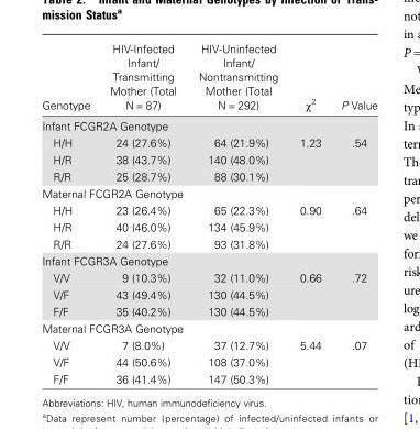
<table><thead><tr><td>Genotype</td><td>HIV-Infected Infant/ Transmitting Mother (Total N = 87)</td><td>HIV-Uninfected Infant/ Nontransmitting Mother (Total N = 292)</td><td>χ<sup>2</sup></td><td>P Value</td></tr></thead><tbody><tr><td colspan="5">Infant FCGR2A Genotype</td></tr><tr><td>H/H</td><td>24 (27.6%)</td><td>64 (21.9%)</td><td rowspan="3">1.23</td><td rowspan="3">.54</td></tr><tr><td>H/R</td><td>38 (43.7%)</td><td>140 (48.0%)</td></tr><tr><td>R/R</td><td>25 (28.7%)</td><td>88 (30.1%)</td></tr><tr><td colspan="5">Maternal FCGR2A Genotype</td></tr><tr><td>H/H</td><td>23 (26.4%)</td><td>65 (22.3%)</td><td rowspan="3">0.90</td><td rowspan="3">.64</td></tr><tr><td>H/R</td><td>40 (46.0%)</td><td>134 (45.9%)</td></tr><tr><td>R/R</td><td>24 (27.6%)</td><td>93 (31.8%)</td></tr><tr><td colspan="5">Infant FCGR3A Genotype</td></tr><tr><td>V/V</td><td>9 (10.3%)</td><td>32 (11.0%)</td><td rowspan="3">0.66</td><td rowspan="3">.72</td></tr><tr><td>V/F</td><td>43 (49.4%)</td><td>130 (44.5%)</td></tr><tr><td>F/F</td><td>35 (40.2%)</td><td>130 (44.5%)</td></tr><tr><td colspan="5">Maternal FCGR3A Genotype</td></tr><tr><td>V/V</td><td>7 (8.0%)</td><td>37 (12.7%)</td><td rowspan="3">5.44</td><td rowspan="3">.07</td></tr><tr><td>V/F</td><td>44 (50.6%)</td><td>108 (37.0%)</td></tr><tr><td>F/F</td><td>36 (41.4%)</td><td>147 (50.3%)</td></tr></tbody></table>